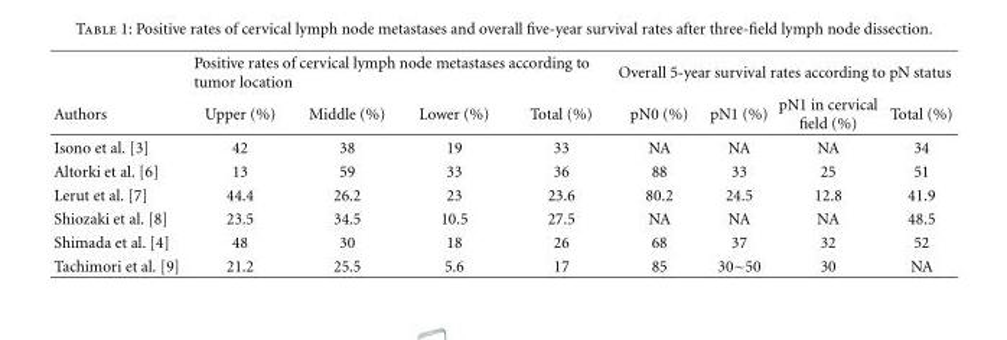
<table><thead><tr><td rowspan="2">Authors</td><td colspan="4">Positive rates of cervical lymph node metastases according to tumor location</td><td colspan="4">Overall 5-year survival rates according to pN status</td></tr><tr><td>Upper (%)</td><td>Middle (%)</td><td>Lower (%)</td><td>Total (%)</td><td>pN0 (%)</td><td>pN1 (%)</td><td>pN1 in cervical field (%)</td><td>Total (%)</td></tr></thead><tbody><tr><td>Isono et al. [3]</td><td>42</td><td>38</td><td>19</td><td>33</td><td>NA</td><td>NA</td><td>NA</td><td>34</td></tr><tr><td>Altorki et al. [6]</td><td>13</td><td>59</td><td>33</td><td>36</td><td>88</td><td>33</td><td>25</td><td>51</td></tr><tr><td>Lerut et al. [7]</td><td>44.4</td><td>26.2</td><td>23</td><td>23.6</td><td>80.2</td><td>24.5</td><td>12.8</td><td>41.9</td></tr><tr><td>Shiozaki et al. [8]</td><td>23.5</td><td>34.5</td><td>10.5</td><td>27.5</td><td>NA</td><td>NA</td><td>NA</td><td>48.5</td></tr><tr><td>Shimada et al. [4]</td><td>48</td><td>30</td><td>18</td><td>26</td><td>68</td><td>37</td><td>32</td><td>52</td></tr><tr><td>Tachimori et al. [9]</td><td>21.2</td><td>25.5</td><td>5.6</td><td>17</td><td>85</td><td>30∼50</td><td>30</td><td>NA</td></tr></tbody></table>